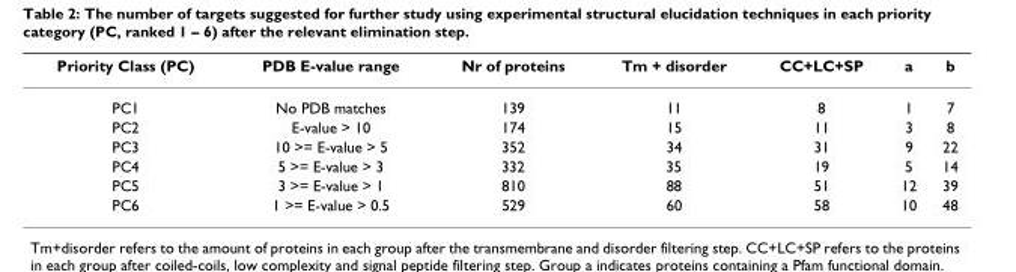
<table><thead><tr><td>Priority Class (PC)</td><td>PDB E-value range</td><td>Nr of proteins</td><td>Tm + disorder</td><td>CC+LC+SP</td><td>a</td><td>b</td></tr></thead><tbody><tr><td>PC1</td><td>No PDB matches</td><td>139</td><td>11</td><td>8</td><td>1</td><td>7</td></tr><tr><td>PC2</td><td>E-value &gt; 10</td><td>174</td><td>15</td><td>11</td><td>3</td><td>8</td></tr><tr><td>PC3</td><td>10 &gt;= E-value &gt; 5</td><td>352</td><td>34</td><td>31</td><td>9</td><td>22</td></tr><tr><td>PC4</td><td>5 &gt;= E-value &gt; 3</td><td>332</td><td>35</td><td>19</td><td>5</td><td>14</td></tr><tr><td>PC5</td><td>3 &gt;= E-value &gt; 1</td><td>810</td><td>88</td><td>51</td><td>12</td><td>39</td></tr><tr><td>PC6</td><td>1 &gt;= E-value &gt; 0.5</td><td>529</td><td>60</td><td>58</td><td>10</td><td>48</td></tr></tbody></table>